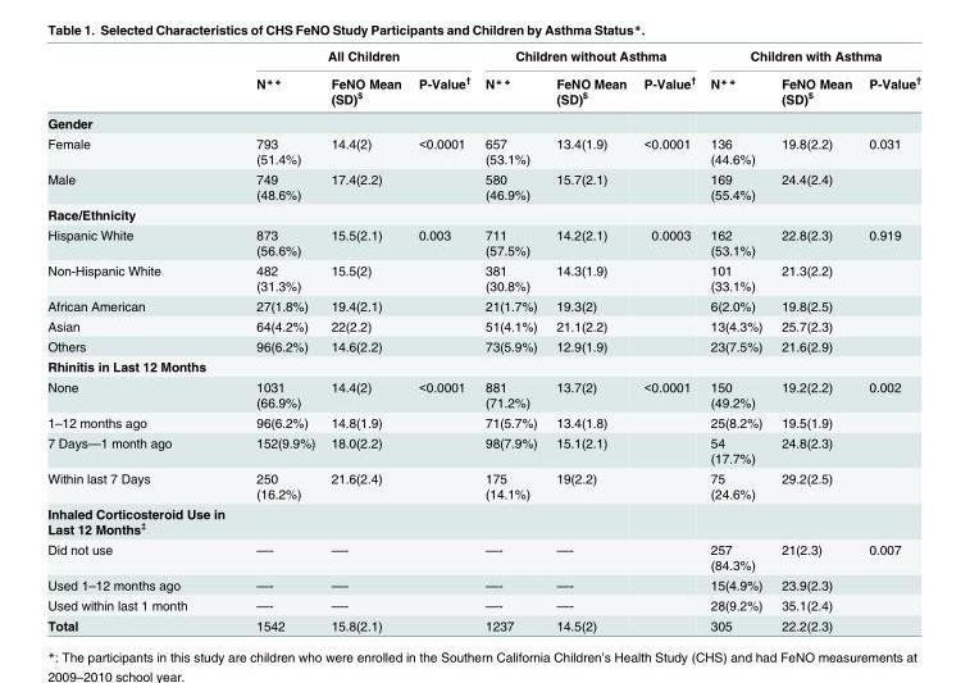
<table><thead><tr><td rowspan="2"></td><td colspan="3">All Children</td><td colspan="3">Children without Asthma</td><td colspan="3">Children with Asthma</td></tr><tr><td>N**</td><td>FeNO Mean (SD)<sup>$</sup></td><td>P-Value<sup>†</sup></td><td>N**</td><td>FeNO Mean (SD)<sup>$</sup></td><td>P-Value<sup>†</sup></td><td>N**</td><td>FeNO Mean (SD)<sup>$</sup></td><td>P-Value<sup>†</sup></td></tr></thead><tbody><tr><td colspan="10">Gender</td></tr><tr><td>Female</td><td>793 (51.4%)</td><td>14.4(2)</td><td>&lt;0.0001</td><td>657 (53.1%)</td><td>13.4(1.9)</td><td>&lt;0.0001</td><td>136 (44.6%)</td><td>19.8(2.2)</td><td>0.031</td></tr><tr><td>Male</td><td>749 (48.6%)</td><td>17.4(2.2)</td><td></td><td>580 (46.9%)</td><td>15.7(2.1)</td><td></td><td>169 (55.4%)</td><td>24.4(2.4)</td><td></td></tr><tr><td colspan="10">Race/Ethnicity</td></tr><tr><td>Hispanic White</td><td>873 (56.6%)</td><td>15.5(2.1)</td><td>0.003</td><td>711 (57.5%)</td><td>14.2(2.1)</td><td>0.0003</td><td>162 (53.1%)</td><td>22.8(2.3)</td><td>0.919</td></tr><tr><td>Non-Hispanic White</td><td>482 (31.3%)</td><td>15.5(2)</td><td></td><td>381 (30.8%)</td><td>14.3(1.9)</td><td></td><td>101 (33.1%)</td><td>21.3(2.2)</td><td></td></tr><tr><td>African American</td><td>27(1.8%)</td><td>19.4(2.1)</td><td></td><td>21(1.7%)</td><td>19.3(2)</td><td></td><td>6(2.0%)</td><td>19.8(2.5)</td><td></td></tr><tr><td>Asian</td><td>64(4.2%)</td><td>22(2.2)</td><td></td><td>51(4.1%)</td><td>21.1(2.2)</td><td></td><td>13(4.3%)</td><td>25.7(2.3)</td><td></td></tr><tr><td>Others</td><td>96(6.2%)</td><td>14.6(2.2)</td><td></td><td>73(5.9%)</td><td>12.9(1.9)</td><td></td><td>23(7.5%)</td><td>21.6(2.9)</td><td></td></tr><tr><td colspan="10">Rhinitis in Last 12 Months</td></tr><tr><td>None</td><td>1031 (66.9%)</td><td>14.4(2)</td><td>&lt;0.0001</td><td>881 (71.2%)</td><td>13.7(2)</td><td>&lt;0.0001</td><td>150 (49.2%)</td><td>19.2(2.2)</td><td>0.002</td></tr><tr><td>1–12 months ago</td><td>96(6.2%)</td><td>14.8(1.9)</td><td></td><td>71(5.7%)</td><td>13.4(1.8)</td><td></td><td>25(8.2%)</td><td>19.5(1.9)</td><td></td></tr><tr><td>7 Days—1 month ago</td><td>152(9.9%)</td><td>18.0(2.2)</td><td></td><td>98(7.9%)</td><td>15.1(2.1)</td><td></td><td>54 (17.7%)</td><td>24.8(2.3)</td><td></td></tr><tr><td>Within last 7 Days</td><td>250 (16.2%)</td><td>21.6(2.4)</td><td></td><td>175 (14.1%)</td><td>19(2.2)</td><td></td><td>75 (24.6%)</td><td>29.2(2.5)</td><td></td></tr><tr><td colspan="10">Inhaled Corticosteroid Use in Last 12 Months<sup>‡</sup></td></tr><tr><td>Did not use</td><td>—-</td><td>—-</td><td></td><td>—-</td><td>—-</td><td></td><td>257 (84.3%)</td><td>21(2.3)</td><td>0.007</td></tr><tr><td>Used 1–12 months ago</td><td>—-</td><td>—-</td><td></td><td>—-</td><td>—-</td><td></td><td>15(4.9%)</td><td>23.9(2.3)</td><td></td></tr><tr><td>Used within last 1 month</td><td>—-</td><td>—-</td><td></td><td>—-</td><td>—-</td><td></td><td>28(9.2%)</td><td>35.1(2.4)</td><td></td></tr><tr><td>Total</td><td>1542</td><td>15.8(2.1)</td><td></td><td>1237</td><td>14.5(2)</td><td></td><td>305</td><td>22.2(2.3)</td><td></td></tr></tbody></table>